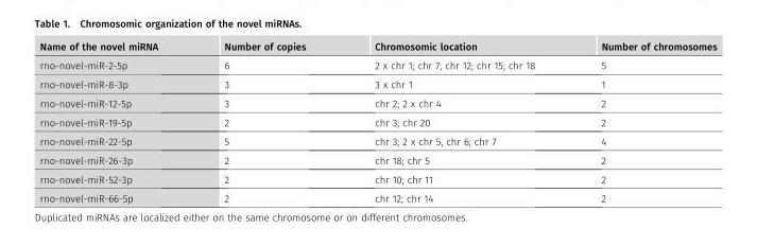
<table><thead><tr><td>Name of the novel miRNA</td><td>Number of copies</td><td>Chromosomic location</td><td>Number of chromosomes</td></tr></thead><tbody><tr><td>rno-novel-miR-2-5p</td><td>6</td><td>2 x chr 1; chr 7; chr 12; chr 15; chr 18</td><td>5</td></tr><tr><td>rno-novel-miR-8-3p</td><td>3</td><td>3 x chr 1</td><td>1</td></tr><tr><td>rno-novel-miR-12-5p</td><td>3</td><td>chr 2; 2 x chr 4</td><td>2</td></tr><tr><td>rno-novel-miR-19-5p</td><td>2</td><td>chr 3; chr 20</td><td>2</td></tr><tr><td>rno-novel-miR-22-5p</td><td>5</td><td>chr 3; 2 x chr 5, chr 6; chr 7</td><td>4</td></tr><tr><td>rno-novel-miR-26-3p</td><td>2</td><td>chr 18; chr 5</td><td>2</td></tr><tr><td>rno-novel-miR-52-3p</td><td>2</td><td>chr 10; chr 11</td><td>2</td></tr><tr><td>rno-novel-miR-66-5p</td><td>2</td><td>chr 12; chr 14</td><td>2</td></tr></tbody></table>